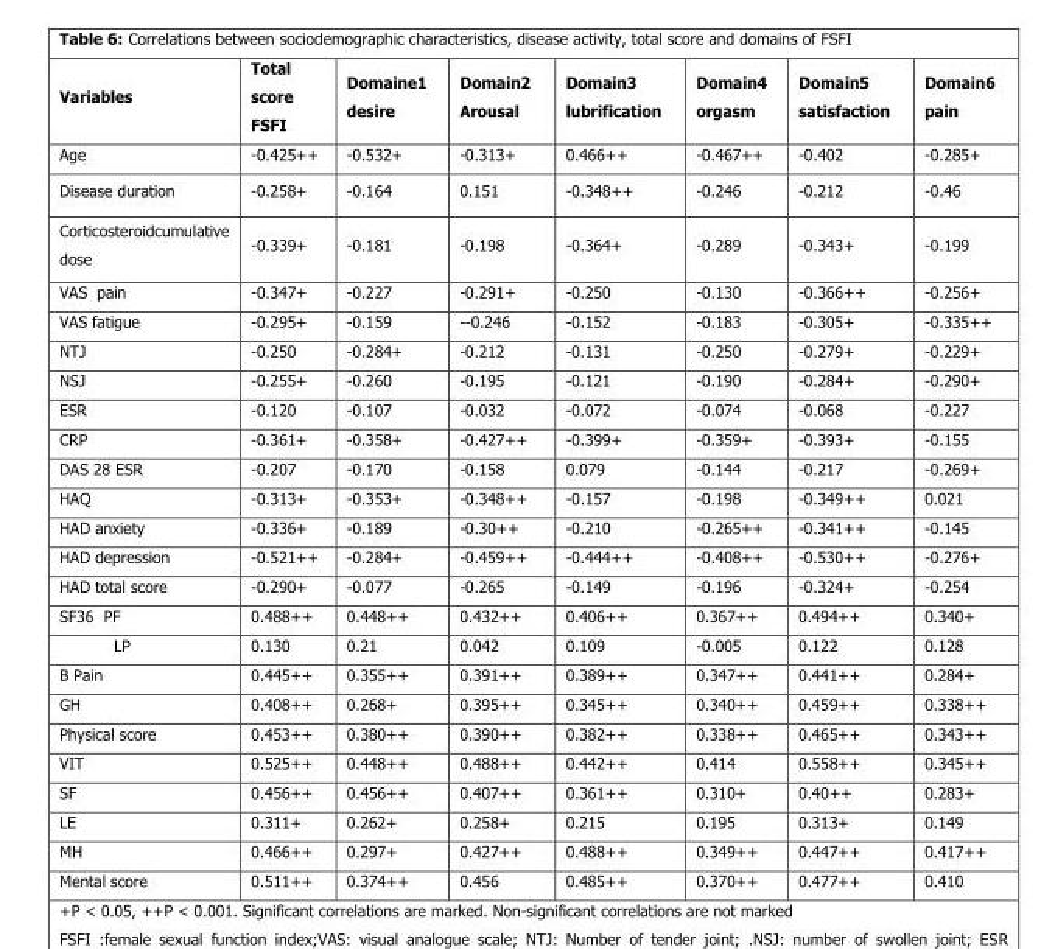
<table><thead><tr><td>Variables</td><td>Total score FSFI</td><td>Domaine1 desire</td><td>Domain2 Arousal</td><td>Domain3 lubrification</td><td>Domain4 orgasm</td><td>Domain5 satisfaction</td><td>Domain6 pain</td></tr></thead><tbody><tr><td>Age</td><td>-0.425++</td><td>-0.532+</td><td>-0.313+</td><td>0.466++</td><td>-0.467++</td><td>-0.402</td><td>-0.285+</td></tr><tr><td>Disease duration</td><td>-0.258+</td><td>-0.164</td><td>0.151</td><td>-0.348++</td><td>-0.246</td><td>-0.212</td><td>-0.46</td></tr><tr><td>Corticosteroidcumulative dose</td><td>-0.339+</td><td>-0.181</td><td>-0.198</td><td>-0.364+</td><td>-0.289</td><td>-0.343+</td><td>-0.199</td></tr><tr><td>VAS pain</td><td>-0.347+</td><td>-0.227</td><td>-0.291+</td><td>-0.250</td><td>-0.130</td><td>-0.366++</td><td>-0.256+</td></tr><tr><td>VAS fatigue</td><td>-0.295+</td><td>-0.159</td><td>--0.246</td><td>-0.152</td><td>-0.183</td><td>-0.305+</td><td>-0.335++</td></tr><tr><td>NTJ</td><td>-0.250</td><td>-0.284+</td><td>-0.212</td><td>-0.131</td><td>-0.250</td><td>-0.279+</td><td>-0.229+</td></tr><tr><td>NSJ</td><td>-0.255+</td><td>-0.260</td><td>-0.195</td><td>-0.121</td><td>-0.190</td><td>-0.284+</td><td>-0.290+</td></tr><tr><td>ESR</td><td>-0.120</td><td>-0.107</td><td>-0.032</td><td>-0.072</td><td>-0.074</td><td>-0.068</td><td>-0.227</td></tr><tr><td>CRP</td><td>-0.361+</td><td>-0.358+</td><td>-0.427++</td><td>-0.399+</td><td>-0.359+</td><td>-0.393+</td><td>-0.155</td></tr><tr><td>DAS 28 ESR</td><td>-0.207</td><td>-0.170</td><td>-0.158</td><td>0.079</td><td>-0.144</td><td>-0.217</td><td>-0.269+</td></tr><tr><td>HAQ</td><td>-0.313+</td><td>-0.353+</td><td>-0.348++</td><td>-0.157</td><td>-0.198</td><td>-0.349++</td><td>0.021</td></tr><tr><td>HAD anxiety</td><td>-0.336+</td><td>-0.189</td><td>-0.30++</td><td>-0.210</td><td>-0.265++</td><td>-0.341++</td><td>-0.145</td></tr><tr><td>HAD depression</td><td>-0.521++</td><td>-0.284+</td><td>-0.459++</td><td>-0.444++</td><td>-0.408++</td><td>-0.530++</td><td>-0.276+</td></tr><tr><td>HAD total score</td><td>-0.290+</td><td>-0.077</td><td>-0.265</td><td>-0.149</td><td>-0.196</td><td>-0.324+</td><td>-0.254</td></tr><tr><td>SF36 PF</td><td>0.488++</td><td>0.448++</td><td>0.432++</td><td>0.406++</td><td>0.367++</td><td>0.494++</td><td>0.340+</td></tr><tr><td>LP</td><td>0.130</td><td>0.21</td><td>0.042</td><td>0.109</td><td>-0.005</td><td>0.122</td><td>0.128</td></tr><tr><td>B Pain</td><td>0.445++</td><td>0.355++</td><td>0.391++</td><td>0.389++</td><td>0.347++</td><td>0.441++</td><td>0.284+</td></tr><tr><td>GH</td><td>0.408++</td><td>0.268+</td><td>0.395++</td><td>0.345++</td><td>0.340++</td><td>0.459++</td><td>0.338++</td></tr><tr><td>Physical score</td><td>0.453++</td><td>0.380++</td><td>0.390++</td><td>0.382++</td><td>0.338++</td><td>0.465++</td><td>0.343++</td></tr><tr><td>VIT</td><td>0.525++</td><td>0.448++</td><td>0.488++</td><td>0.442++</td><td>0.414</td><td>0.558++</td><td>0.345++</td></tr><tr><td>SF</td><td>0.456++</td><td>0.456++</td><td>0.407++</td><td>0.361++</td><td>0.310+</td><td>0.40++</td><td>0.283+</td></tr><tr><td>LE</td><td>0.311+</td><td>0.262+</td><td>0.258+</td><td>0.215</td><td>0.195</td><td>0.313+</td><td>0.149</td></tr><tr><td>MH</td><td>0.466++</td><td>0.297+</td><td>0.427++</td><td>0.488++</td><td>0.349++</td><td>0.447++</td><td>0.417++</td></tr><tr><td>Mental score</td><td>0.511++</td><td>0.374++</td><td>0.456</td><td>0.485++</td><td>0.370++</td><td>0.477++</td><td>0.410</td></tr></tbody></table>